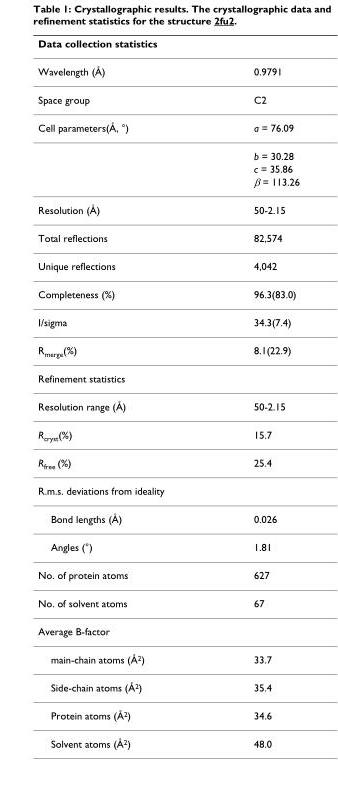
<table><thead><tr><td colspan="2">Data collection statistics</td></tr><tr><td>Wavelength (Å)</td><td>0.9791</td></tr></thead><tbody><tr><td>Space group</td><td>C2</td></tr><tr><td rowspan="4">Cell parameters(Å, °)</td><td>a = 76.09</td></tr><tr><td>b = 30.28</td></tr><tr><td>c = 35.86</td></tr><tr><td>β = 113.26</td></tr><tr><td>Resolution (Å)</td><td>50-2.15</td></tr><tr><td>Total reflections</td><td>82,574</td></tr><tr><td>Unique reflections</td><td>4,042</td></tr><tr><td>Completeness (%)</td><td>96.3(83.0)</td></tr><tr><td>I/sigma</td><td>34.3(7.4)</td></tr><tr><td>R<sub>merge</sub>(%)</td><td>8.1(22.9)</td></tr><tr><td colspan="2">Refinement statistics</td></tr><tr><td>Resolution range (Å)</td><td>50-2.15</td></tr><tr><td>R<sub>cryst</sub>(%)</td><td>15.7</td></tr><tr><td>R<sub>free</sub> (%)</td><td>25.4</td></tr><tr><td colspan="2">R.m.s. deviations from ideality</td></tr><tr><td>Bond lengths (Å)</td><td>0.026</td></tr><tr><td>Angles (°)</td><td>1.81</td></tr><tr><td>No. of protein atoms</td><td>627</td></tr><tr><td>No. of solvent atoms</td><td>67</td></tr><tr><td colspan="2">Average B-factor</td></tr><tr><td>main-chain atoms (Å<sup>2</sup>)</td><td>33.7</td></tr><tr><td>Side-chain atoms (Å<sup>2</sup>)</td><td>35.4</td></tr><tr><td>Protein atoms (Å<sup>2</sup>)</td><td>34.6</td></tr><tr><td>Solvent atoms (Å<sup>2</sup>)</td><td>48.0</td></tr></tbody></table>